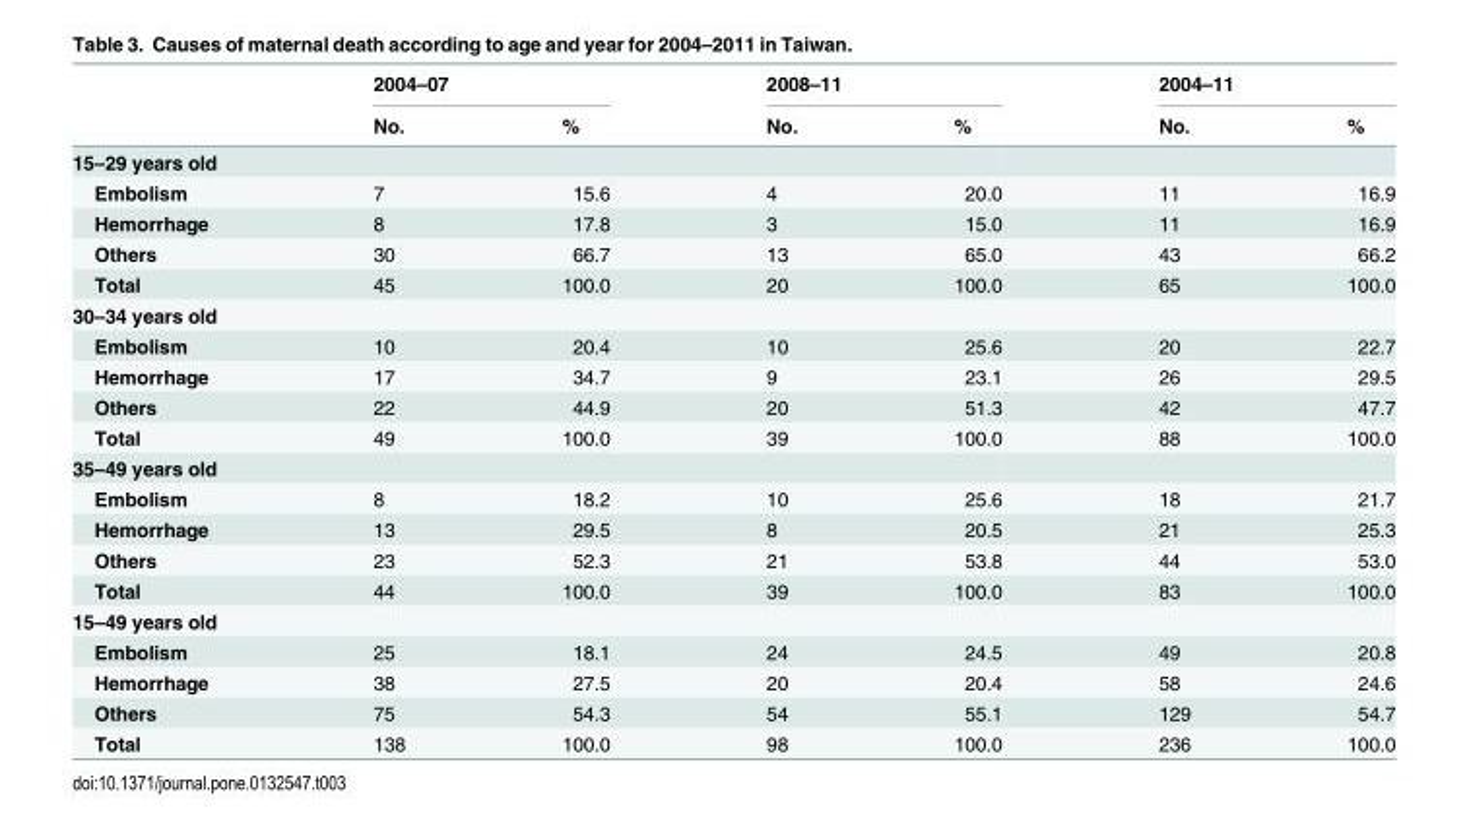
<table><thead><tr><td rowspan="2"></td><td colspan="2">2004–07</td><td colspan="2">2008–11</td><td colspan="2">2004–11</td></tr><tr><td>No.</td><td>%</td><td>No.</td><td>%</td><td>No.</td><td>%</td></tr></thead><tbody><tr><td colspan="7">15–29 years old</td></tr><tr><td>Embolism</td><td>7</td><td>15.6</td><td>4</td><td>20.0</td><td>11</td><td>16.9</td></tr><tr><td>Hemorrhage</td><td>8</td><td>17.8</td><td>3</td><td>15.0</td><td>11</td><td>16.9</td></tr><tr><td>Others</td><td>30</td><td>66.7</td><td>13</td><td>65.0</td><td>43</td><td>66.2</td></tr><tr><td>Total</td><td>45</td><td>100.0</td><td>20</td><td>100.0</td><td>65</td><td>100.0</td></tr><tr><td colspan="7">30–34 years old</td></tr><tr><td>Embolism</td><td>10</td><td>20.4</td><td>10</td><td>25.6</td><td>20</td><td>22.7</td></tr><tr><td>Hemorrhage</td><td>17</td><td>34.7</td><td>9</td><td>23.1</td><td>26</td><td>29.5</td></tr><tr><td>Others</td><td>22</td><td>44.9</td><td>20</td><td>51.3</td><td>42</td><td>47.7</td></tr><tr><td>Total</td><td>49</td><td>100.0</td><td>39</td><td>100.0</td><td>88</td><td>100.0</td></tr><tr><td colspan="7">35–49 years old</td></tr><tr><td>Embolism</td><td>8</td><td>18.2</td><td>10</td><td>25.6</td><td>18</td><td>21.7</td></tr><tr><td>Hemorrhage</td><td>13</td><td>29.5</td><td>8</td><td>20.5</td><td>21</td><td>25.3</td></tr><tr><td>Others</td><td>23</td><td>52.3</td><td>21</td><td>53.8</td><td>44</td><td>53.0</td></tr><tr><td>Total</td><td>44</td><td>100.0</td><td>39</td><td>100.0</td><td>83</td><td>100.0</td></tr><tr><td colspan="7">15–49 years old</td></tr><tr><td>Embolism</td><td>25</td><td>18.1</td><td>24</td><td>24.5</td><td>49</td><td>20.8</td></tr><tr><td>Hemorrhage</td><td>38</td><td>27.5</td><td>20</td><td>20.4</td><td>58</td><td>24.6</td></tr><tr><td>Others</td><td>75</td><td>54.3</td><td>54</td><td>55.1</td><td>129</td><td>54.7</td></tr><tr><td>Total</td><td>138</td><td>100.0</td><td>98</td><td>100.0</td><td>236</td><td>100.0</td></tr></tbody></table>